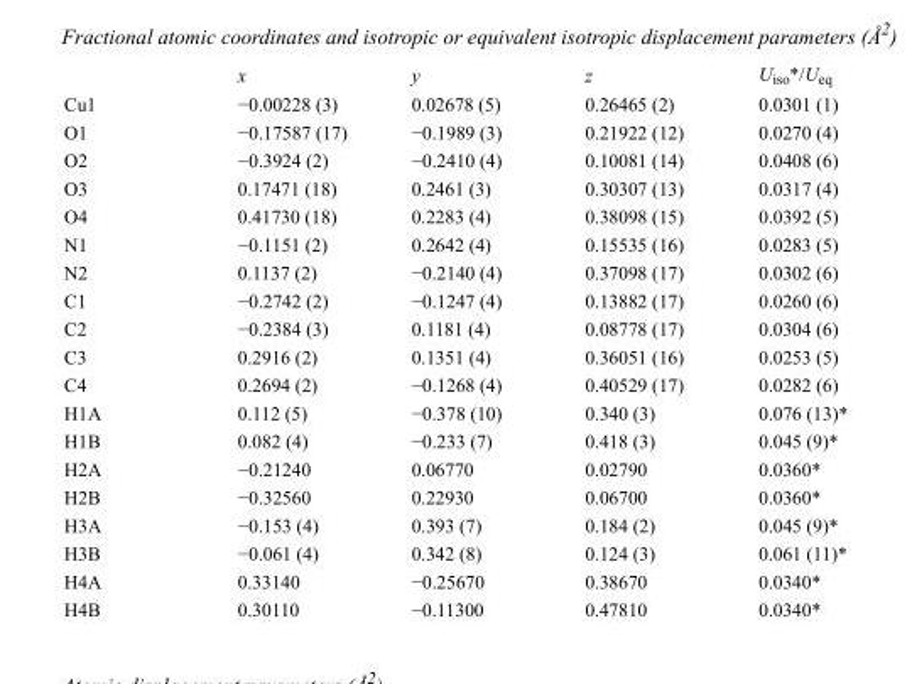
<table><thead><tr><td></td><td>x</td><td>y</td><td>z</td><td>U<sub>iso</sub>*/U<sub>eq</sub></td></tr></thead><tbody><tr><td>Cu1</td><td>−0.00228 (3)</td><td>0.02678 (5)</td><td>0.26465 (2)</td><td>0.0301 (1)</td></tr><tr><td>O1</td><td>−0.17587 (17)</td><td>−0.1989 (3)</td><td>0.21922 (12)</td><td>0.0270 (4)</td></tr><tr><td>O2</td><td>−0.3924 (2)</td><td>−0.2410 (4)</td><td>0.10081 (14)</td><td>0.0408 (6)</td></tr><tr><td>O3</td><td>0.17471 (18)</td><td>0.2461 (3)</td><td>0.30307 (13)</td><td>0.0317 (4)</td></tr><tr><td>O4</td><td>0.41730 (18)</td><td>0.2283 (4)</td><td>0.38098 (15)</td><td>0.0392 (5)</td></tr><tr><td>N1</td><td>−0.1151 (2)</td><td>0.2642 (4)</td><td>0.15535 (16)</td><td>0.0283 (5)</td></tr><tr><td>N2</td><td>0.1137 (2)</td><td>−0.2140 (4)</td><td>0.37098 (17)</td><td>0.0302 (6)</td></tr><tr><td>C1</td><td>−0.2742 (2)</td><td>−0.1247 (4)</td><td>0.13882 (17)</td><td>0.0260 (6)</td></tr><tr><td>C2</td><td>−0.2384 (3)</td><td>0.1181 (4)</td><td>0.08778 (17)</td><td>0.0304 (6)</td></tr><tr><td>C3</td><td>0.2916 (2)</td><td>0.1351 (4)</td><td>0.36051 (16)</td><td>0.0253 (5)</td></tr><tr><td>C4</td><td>0.2694 (2)</td><td>−0.1268 (4)</td><td>0.40529 (17)</td><td>0.0282 (6)</td></tr><tr><td>H1A</td><td>0.112 (5)</td><td>−0.378 (10)</td><td>0.340 (3)</td><td>0.076 (13)*</td></tr><tr><td>H1B</td><td>0.082 (4)</td><td>−0.233 (7)</td><td>0.418 (3)</td><td>0.045 (9)*</td></tr><tr><td>H2A</td><td>−0.21240</td><td>0.06770</td><td>0.02790</td><td>0.0360*</td></tr><tr><td>H2B</td><td>−0.32560</td><td>0.22930</td><td>0.06700</td><td>0.0360*</td></tr><tr><td>H3A</td><td>−0.153 (4)</td><td>0.393 (7)</td><td>0.184 (2)</td><td>0.045 (9)*</td></tr><tr><td>H3B</td><td>−0.061 (4)</td><td>0.342 (8)</td><td>0.124 (3)</td><td>0.061 (11)*</td></tr><tr><td>H4A</td><td>0.33140</td><td>−0.25670</td><td>0.38670</td><td>0.0340*</td></tr><tr><td>H4B</td><td>0.30110</td><td>−0.11300</td><td>0.47810</td><td>0.0340*</td></tr></tbody></table>